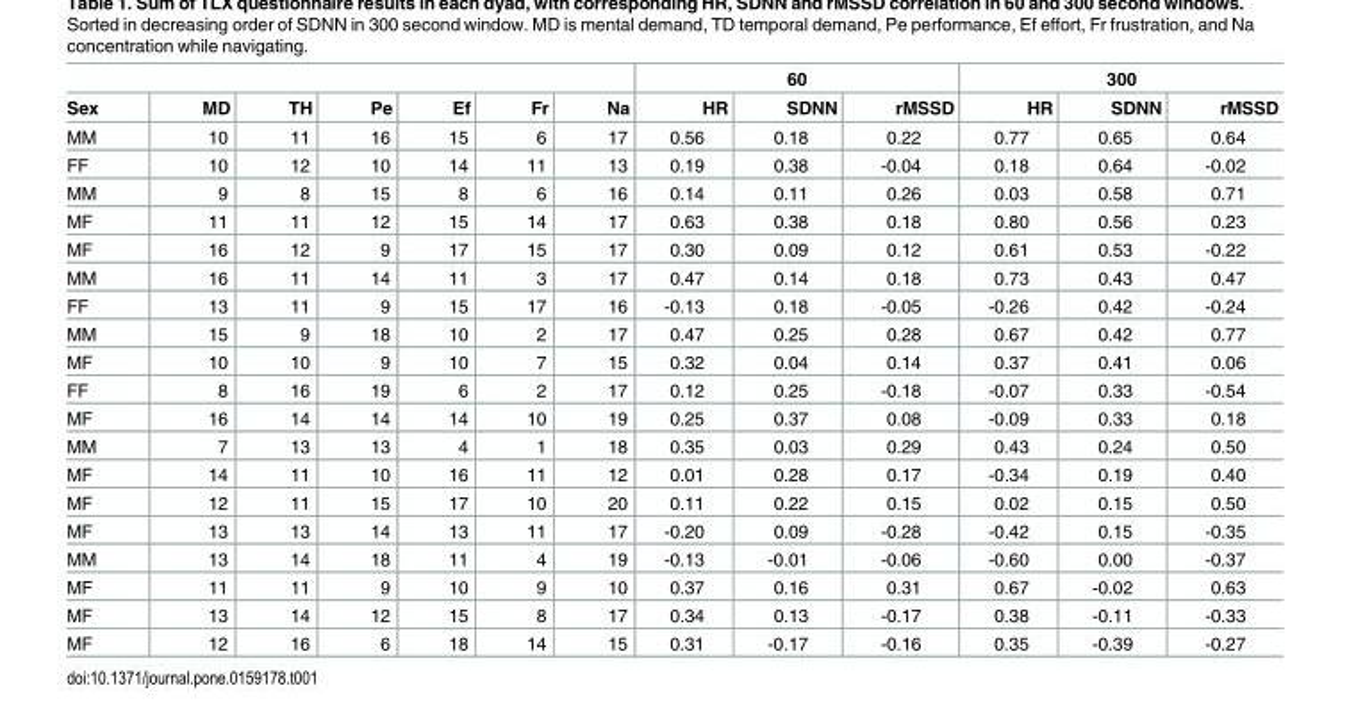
<table><thead><tr><td rowspan="2">Sex</td><td rowspan="2">MD</td><td rowspan="2">TH</td><td rowspan="2">Pe</td><td rowspan="2">Ef</td><td rowspan="2">Fr</td><td rowspan="2">Na</td><td colspan="3">60</td><td colspan="3">300</td></tr><tr><td>HR</td><td>SDNN</td><td>rMSSD</td><td>HR</td><td>SDNN</td><td>rMSSD</td></tr></thead><tbody><tr><td>MM</td><td>10</td><td>11</td><td>16</td><td>15</td><td>6</td><td>17</td><td>0.56</td><td>0.18</td><td>0.22</td><td>0.77</td><td>0.65</td><td>0.64</td></tr><tr><td>FF</td><td>10</td><td>12</td><td>10</td><td>14</td><td>11</td><td>13</td><td>0.19</td><td>0.38</td><td>-0.04</td><td>0.18</td><td>0.64</td><td>-0.02</td></tr><tr><td>MM</td><td>9</td><td>8</td><td>15</td><td>8</td><td>6</td><td>16</td><td>0.14</td><td>0.11</td><td>0.26</td><td>0.03</td><td>0.58</td><td>0.71</td></tr><tr><td>MF</td><td>11</td><td>11</td><td>12</td><td>15</td><td>14</td><td>17</td><td>0.63</td><td>0.38</td><td>0.18</td><td>0.80</td><td>0.56</td><td>0.23</td></tr><tr><td>MF</td><td>16</td><td>12</td><td>9</td><td>17</td><td>15</td><td>17</td><td>0.30</td><td>0.09</td><td>0.12</td><td>0.61</td><td>0.53</td><td>-0.22</td></tr><tr><td>MM</td><td>16</td><td>11</td><td>14</td><td>11</td><td>3</td><td>17</td><td>0.47</td><td>0.14</td><td>0.18</td><td>0.73</td><td>0.43</td><td>0.47</td></tr><tr><td>FF</td><td>13</td><td>11</td><td>9</td><td>15</td><td>17</td><td>16</td><td>-0.13</td><td>0.18</td><td>-0.05</td><td>-0.26</td><td>0.42</td><td>-0.24</td></tr><tr><td>MM</td><td>15</td><td>9</td><td>18</td><td>10</td><td>2</td><td>17</td><td>0.47</td><td>0.25</td><td>0.28</td><td>0.67</td><td>0.42</td><td>0.77</td></tr><tr><td>MF</td><td>10</td><td>10</td><td>9</td><td>10</td><td>7</td><td>15</td><td>0.32</td><td>0.04</td><td>0.14</td><td>0.37</td><td>0.41</td><td>0.06</td></tr><tr><td>FF</td><td>8</td><td>16</td><td>19</td><td>6</td><td>2</td><td>17</td><td>0.12</td><td>0.25</td><td>-0.18</td><td>-0.07</td><td>0.33</td><td>-0.54</td></tr><tr><td>MF</td><td>16</td><td>14</td><td>14</td><td>14</td><td>10</td><td>19</td><td>0.25</td><td>0.37</td><td>0.08</td><td>-0.09</td><td>0.33</td><td>0.18</td></tr><tr><td>MM</td><td>7</td><td>13</td><td>13</td><td>4</td><td>1</td><td>18</td><td>0.35</td><td>0.03</td><td>0.29</td><td>0.43</td><td>0.24</td><td>0.50</td></tr><tr><td>MF</td><td>14</td><td>11</td><td>10</td><td>16</td><td>11</td><td>12</td><td>0.01</td><td>0.28</td><td>0.17</td><td>-0.34</td><td>0.19</td><td>0.40</td></tr><tr><td>MF</td><td>12</td><td>11</td><td>15</td><td>17</td><td>10</td><td>20</td><td>0.11</td><td>0.22</td><td>0.15</td><td>0.02</td><td>0.15</td><td>0.50</td></tr><tr><td>MF</td><td>13</td><td>13</td><td>14</td><td>13</td><td>11</td><td>17</td><td>-0.20</td><td>0.09</td><td>-0.28</td><td>-0.42</td><td>0.15</td><td>-0.35</td></tr><tr><td>MM</td><td>13</td><td>14</td><td>18</td><td>11</td><td>4</td><td>19</td><td>-0.13</td><td>-0.01</td><td>-0.06</td><td>-0.60</td><td>0.00</td><td>-0.37</td></tr><tr><td>MF</td><td>11</td><td>11</td><td>9</td><td>10</td><td>9</td><td>10</td><td>0.37</td><td>0.16</td><td>0.31</td><td>0.67</td><td>-0.02</td><td>0.63</td></tr><tr><td>MF</td><td>13</td><td>14</td><td>12</td><td>15</td><td>8</td><td>17</td><td>0.34</td><td>0.13</td><td>-0.17</td><td>0.38</td><td>-0.11</td><td>-0.33</td></tr><tr><td>MF</td><td>12</td><td>16</td><td>6</td><td>18</td><td>14</td><td>15</td><td>0.31</td><td>-0.17</td><td>-0.16</td><td>0.35</td><td>-0.39</td><td>-0.27</td></tr></tbody></table>